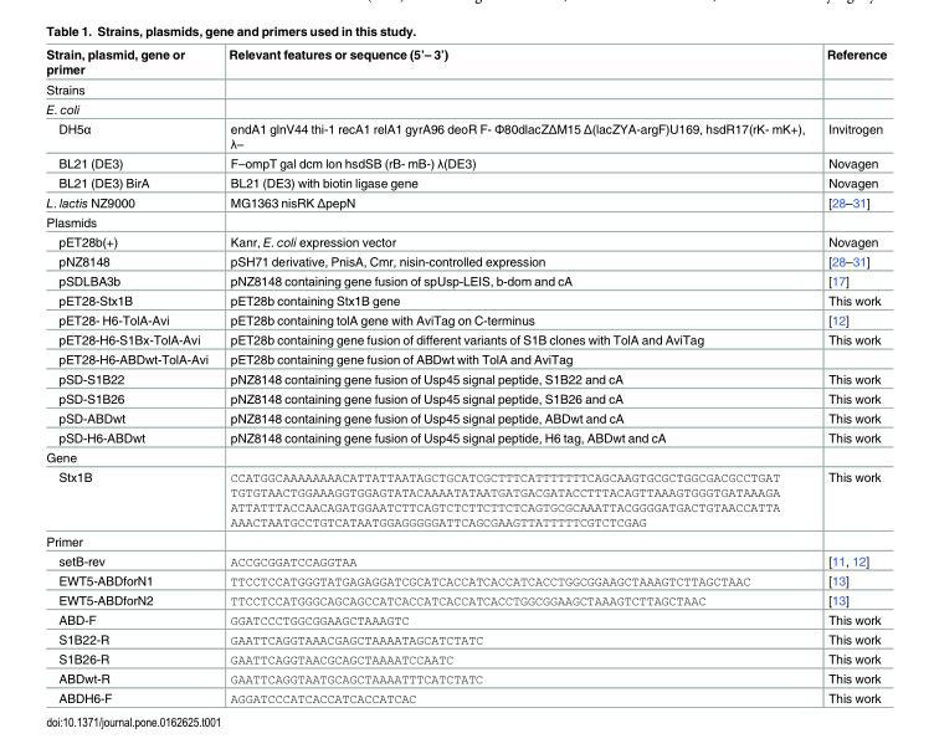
<table><thead><tr><td>Strain, plasmid, gene or primer</td><td>Relevant features or sequence (5’– 3’)</td><td>Reference</td></tr></thead><tbody><tr><td colspan="3">Strains</td></tr><tr><td colspan="3">E. coli</td></tr><tr><td>DH5α</td><td>endA1 glnV44 thi-1 recA1 relA1 gyrA96 deoR F- Φ80dlacZΔM15 Δ(lacZYA-argF)U169, hsdR17(rK- mK+), λ–</td><td>Invitrogen</td></tr><tr><td>BL21 (DE3)</td><td>F–ompT gal dcm lon hsdSB (rB- mB-) λ(DE3)</td><td>Novagen</td></tr><tr><td>BL21 (DE3) BirA</td><td>BL21 (DE3) with biotin ligase gene</td><td>Novagen</td></tr><tr><td>L. lactis NZ9000</td><td>MG1363 nisRK ΔpepN</td><td>[28–31]</td></tr><tr><td colspan="3">Plasmids</td></tr><tr><td>pET28b(+)</td><td>Kanr, E. coli expression vector</td><td>Novagen</td></tr><tr><td>pNZ8148</td><td>pSH71 derivative, PnisA, Cmr, nisin-controlled expression</td><td>[28–31]</td></tr><tr><td>pSDLBA3b</td><td>pNZ8148 containing gene fusion of spUsp-LEIS, b-dom and cA</td><td>[17]</td></tr><tr><td>pET28-Stx1B</td><td>pET28b containing Stx1B gene</td><td>This work</td></tr><tr><td>pET28- H6-TolA-Avi</td><td>pET28b containing tolA gene with AviTag on C-terminus</td><td>[12]</td></tr><tr><td>pET28-H6-S1Bx-TolA-Avi</td><td>pET28b containing gene fusion of different variants of S1B clones with TolA and AviTag</td><td>This work</td></tr><tr><td>pET28-H6-ABDwt-TolA-Avi</td><td>pET28b containing gene fusion of ABDwt with TolA and AviTag</td><td></td></tr><tr><td>pSD-S1B22</td><td>pNZ8148 containing gene fusion of Usp45 signal peptide, S1B22 and cA</td><td>This work</td></tr><tr><td>pSD-S1B26</td><td>pNZ8148 containing gene fusion of Usp45 signal peptide, S1B26 and cA</td><td>This work</td></tr><tr><td>pSD-ABDwt</td><td>pNZ8148 containing gene fusion of Usp45 signal peptide, ABDwt and cA</td><td>This work</td></tr><tr><td>pSD-H6-ABDwt</td><td>pNZ8148 containing gene fusion of Usp45 signal peptide, H6 tag, ABDwt and cA</td><td>This work</td></tr><tr><td colspan="3">Gene</td></tr><tr><td>Stx1B</td><td>CCATGGCAAAAAAAACATTATTAATAGCTGCATCGCTTTCATTTTTTTCAGCAAGTGCGCTGGCGACGCCTGAT TGTGTAACTGGAAAGGTGGAGTATACAAAATATAATGATGACGATACCTTTACAGTTAAAGTGGGTGATAAAGA ATTATTTACCAACAGATGGAATCTTCAGTCTCTTCTTCTCAGTGCGCAAATTACGGGGATGACTGTAACCATTA AAACTAATGCCTGTCATAATGGAGGGGGATTCAGCGAAGTTATTTTTCGTCTCGAG</td><td>This work</td></tr><tr><td colspan="3">Primer</td></tr><tr><td>setB-rev</td><td>ACCGCGGATCCAGGTAA</td><td>[11, 12]</td></tr><tr><td>EWT5-ABDforN1</td><td>TTCCTCCATGGGTATGAGAGGATCGCATCACCATCACCATCACCTGGCGGAAGCTAAAGTCTTAGCTAAC</td><td>[13]</td></tr><tr><td>EWT5-ABDforN2</td><td>TTCCTCCATGGGCAGCAGCCATCACCATCACCATCACCTGGCGGAAGCTAAAGTCTTAGCTAAC</td><td>[13]</td></tr><tr><td>ABD-F</td><td>GGATCCCTGGCGGAAGCTAAAGTC</td><td>This work</td></tr><tr><td>S1B22-R</td><td>GAATTCAGGTAAACGAGCTAAAATAGCATCTATC</td><td>This work</td></tr><tr><td>S1B26-R</td><td>GAATTCAGGTAACGCAGCTAAAATCCAATC</td><td>This work</td></tr><tr><td>ABDwt-R</td><td>GAATTCAGGTAATGCAGCTAAAATTTCATCTATC</td><td>This work</td></tr><tr><td>ABDH6-F</td><td>AGGATCCCATCACCATCACCATCAC</td><td>This work</td></tr></tbody></table>